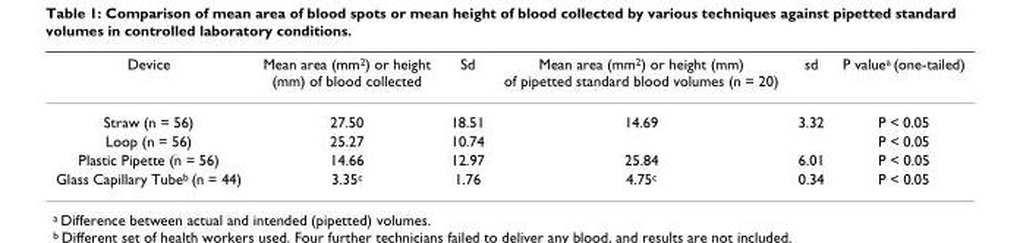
<table><thead><tr><td>Device</td><td>Mean area (mm<sup>2</sup>) or height (mm) of blood collected</td><td>Sd</td><td>Mean area (mm<sup>2</sup>) or height (mm) of pipetted standard blood volumes (n = 20)</td><td>sd</td><td>P value<sup>a</sup> (one-tailed)</td></tr></thead><tbody><tr><td>Straw (n = 56)</td><td>27.50</td><td>18.51</td><td>14.69</td><td>3.32</td><td>P &lt; 0.05</td></tr><tr><td>Loop (n = 56)</td><td>25.27</td><td>10.74</td><td></td><td></td><td>P &lt; 0.05</td></tr><tr><td>Plastic Pipette (n = 56)</td><td>14.66</td><td>12.97</td><td>25.84</td><td>6.01</td><td>P &lt; 0.05</td></tr><tr><td>Glass Capillary Tube<sup>b</sup> (n = 44)</td><td>3.35<sup>c</sup></td><td>1.76</td><td>4.75<sup>c</sup></td><td>0.34</td><td>P &lt; 0.05</td></tr></tbody></table>